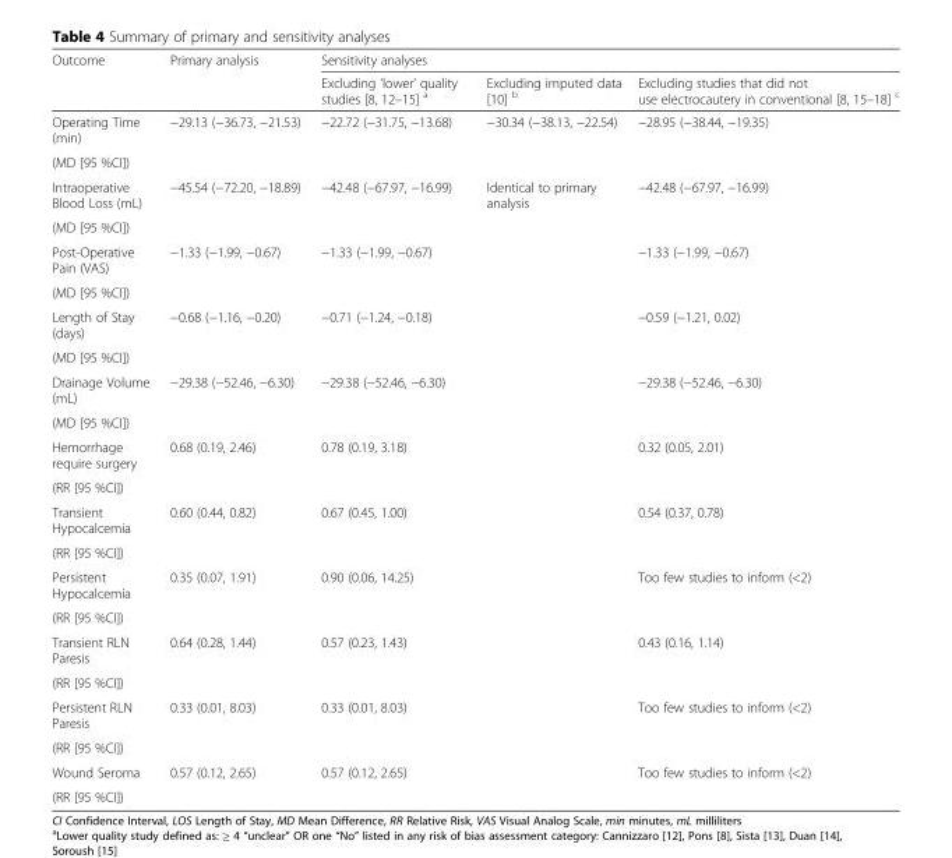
<table><thead><tr><td rowspan="2">Outcome</td><td rowspan="2">Primary analysis</td><td colspan="3">Sensitivity analyses</td></tr><tr><td>Excluding ‘lower’ quality studies [8, 12–15] <sup>a</sup></td><td>Excluding imputed data [10] <sup>b</sup></td><td>Excluding studies that did not use electrocautery in conventional [8, 15–18] <sup>c</sup></td></tr></thead><tbody><tr><td>Operating Time (min)</td><td rowspan="2">−29.13 (−36.73, −21.53)</td><td rowspan="2">−22.72 (−31.75, −13.68)</td><td rowspan="2">−30.34 (−38.13, −22.54)</td><td rowspan="2">−28.95 (−38.44, −19.35)</td></tr><tr><td>(MD [95 %CI])</td></tr><tr><td>Intraoperative Blood Loss (mL)</td><td rowspan="2">−45.54 (−72.20, −18.89)</td><td rowspan="2">−42.48 (−67.97, −16.99)</td><td rowspan="20">Identical to primary analysis</td><td rowspan="2">−42.48 (−67.97, −16.99)</td></tr><tr><td>(MD [95 %CI])</td></tr><tr><td>Post-Operative Pain (VAS)</td><td rowspan="2">−1.33 (−1.99, −0.67)</td><td rowspan="2">−1.33 (−1.99, −0.67)</td><td rowspan="2">−1.33 (−1.99, −0.67)</td></tr><tr><td>(MD [95 %CI])</td></tr><tr><td>Length of Stay (days)</td><td rowspan="2">−0.68 (−1.16, −0.20)</td><td rowspan="2">−0.71 (−1.24, −0.18)</td><td rowspan="2">−0.59 (−1.21, 0.02)</td></tr><tr><td>(MD [95 %CI])</td></tr><tr><td>Drainage Volume (mL)</td><td rowspan="2">−29.38 (−52.46, −6.30)</td><td rowspan="2">−29.38 (−52.46, −6.30)</td><td rowspan="2">−29.38 (−52.46, −6.30)</td></tr><tr><td>(MD [95 %CI])</td></tr><tr><td>Hemorrhage require surgery</td><td rowspan="2">0.68 (0.19, 2.46)</td><td rowspan="2">0.78 (0.19, 3.18)</td><td rowspan="2">0.32 (0.05, 2.01)</td></tr><tr><td>(RR [95 %CI])</td></tr><tr><td>Transient Hypocalcemia</td><td rowspan="2">0.60 (0.44, 0.82)</td><td rowspan="2">0.67 (0.45, 1.00)</td><td rowspan="2">0.54 (0.37, 0.78)</td></tr><tr><td>(RR [95 %CI])</td></tr><tr><td>Persistent Hypocalcemia</td><td rowspan="2">0.35 (0.07, 1.91)</td><td rowspan="2">0.90 (0.06, 14.25)</td><td rowspan="2">Too few studies to inform (&lt;2)</td></tr><tr><td>(RR [95 %CI])</td></tr><tr><td>Transient RLN Paresis</td><td rowspan="2">0.64 (0.28, 1.44)</td><td rowspan="2">0.57 (0.23, 1.43)</td><td rowspan="2">0.43 (0.16, 1.14)</td></tr><tr><td>(RR [95 %CI])</td></tr><tr><td>Persistent RLN Paresis</td><td rowspan="2">0.33 (0.01, 8.03)</td><td rowspan="2">0.33 (0.01, 8.03)</td><td rowspan="2">Too few studies to inform (&lt;2)</td></tr><tr><td>(RR [95 %CI])</td></tr><tr><td>Wound Seroma</td><td rowspan="2">0.57 (0.12, 2.65)</td><td rowspan="2">0.57 (0.12, 2.65)</td><td rowspan="2">Too few studies to inform (&lt;2)</td></tr><tr><td>(RR [95 %CI])</td></tr></tbody></table>